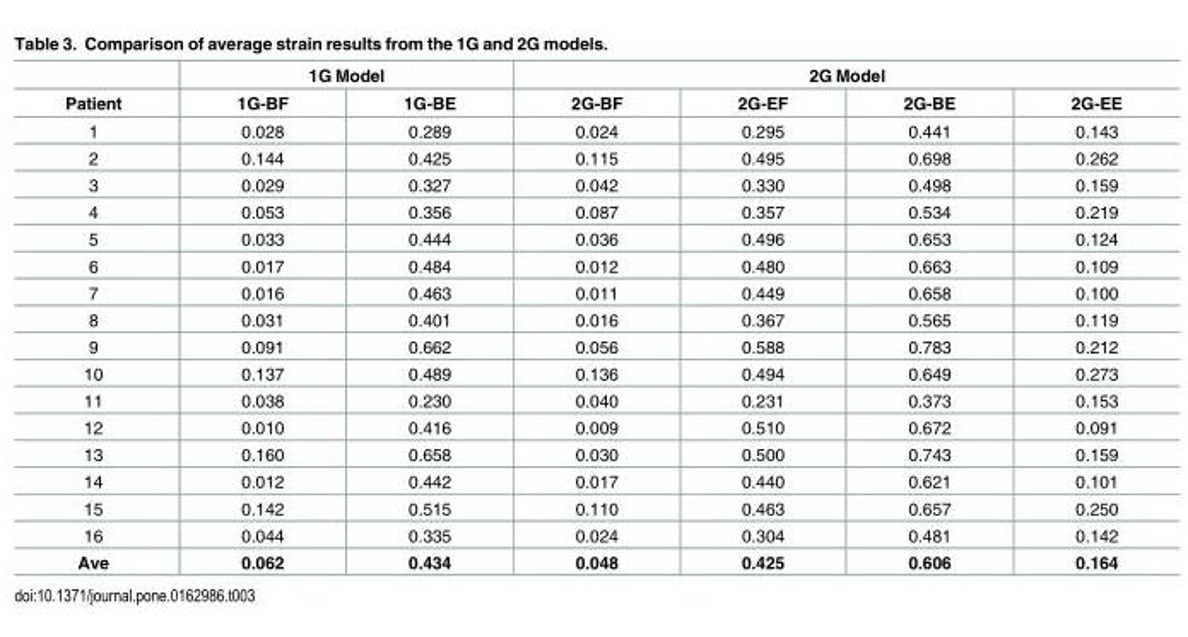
<table><thead><tr><td rowspan="2">Patient</td><td colspan="2">1G Model</td><td colspan="4">2G Model</td></tr><tr><td>1G-BF</td><td>1G-BE</td><td>2G-BF</td><td>2G-EF</td><td>2G-BE</td><td>2G-EE</td></tr></thead><tbody><tr><td>1</td><td>0.028</td><td>0.289</td><td>0.024</td><td>0.295</td><td>0.441</td><td>0.143</td></tr><tr><td>2</td><td>0.144</td><td>0.425</td><td>0.115</td><td>0.495</td><td>0.698</td><td>0.262</td></tr><tr><td>3</td><td>0.029</td><td>0.327</td><td>0.042</td><td>0.330</td><td>0.498</td><td>0.159</td></tr><tr><td>4</td><td>0.053</td><td>0.356</td><td>0.087</td><td>0.357</td><td>0.534</td><td>0.219</td></tr><tr><td>5</td><td>0.033</td><td>0.444</td><td>0.036</td><td>0.496</td><td>0.653</td><td>0.124</td></tr><tr><td>6</td><td>0.017</td><td>0.484</td><td>0.012</td><td>0.480</td><td>0.663</td><td>0.109</td></tr><tr><td>7</td><td>0.016</td><td>0.463</td><td>0.011</td><td>0.449</td><td>0.658</td><td>0.100</td></tr><tr><td>8</td><td>0.031</td><td>0.401</td><td>0.016</td><td>0.367</td><td>0.565</td><td>0.119</td></tr><tr><td>9</td><td>0.091</td><td>0.662</td><td>0.056</td><td>0.588</td><td>0.783</td><td>0.212</td></tr><tr><td>10</td><td>0.137</td><td>0.489</td><td>0.136</td><td>0.494</td><td>0.649</td><td>0.273</td></tr><tr><td>11</td><td>0.038</td><td>0.230</td><td>0.040</td><td>0.231</td><td>0.373</td><td>0.153</td></tr><tr><td>12</td><td>0.010</td><td>0.416</td><td>0.009</td><td>0.510</td><td>0.672</td><td>0.091</td></tr><tr><td>13</td><td>0.160</td><td>0.658</td><td>0.030</td><td>0.500</td><td>0.743</td><td>0.159</td></tr><tr><td>14</td><td>0.012</td><td>0.442</td><td>0.017</td><td>0.440</td><td>0.621</td><td>0.101</td></tr><tr><td>15</td><td>0.142</td><td>0.515</td><td>0.110</td><td>0.463</td><td>0.657</td><td>0.250</td></tr><tr><td>16</td><td>0.044</td><td>0.335</td><td>0.024</td><td>0.304</td><td>0.481</td><td>0.142</td></tr><tr><td>Ave</td><td>0.062</td><td>0.434</td><td>0.048</td><td>0.425</td><td>0.606</td><td>0.164</td></tr></tbody></table>